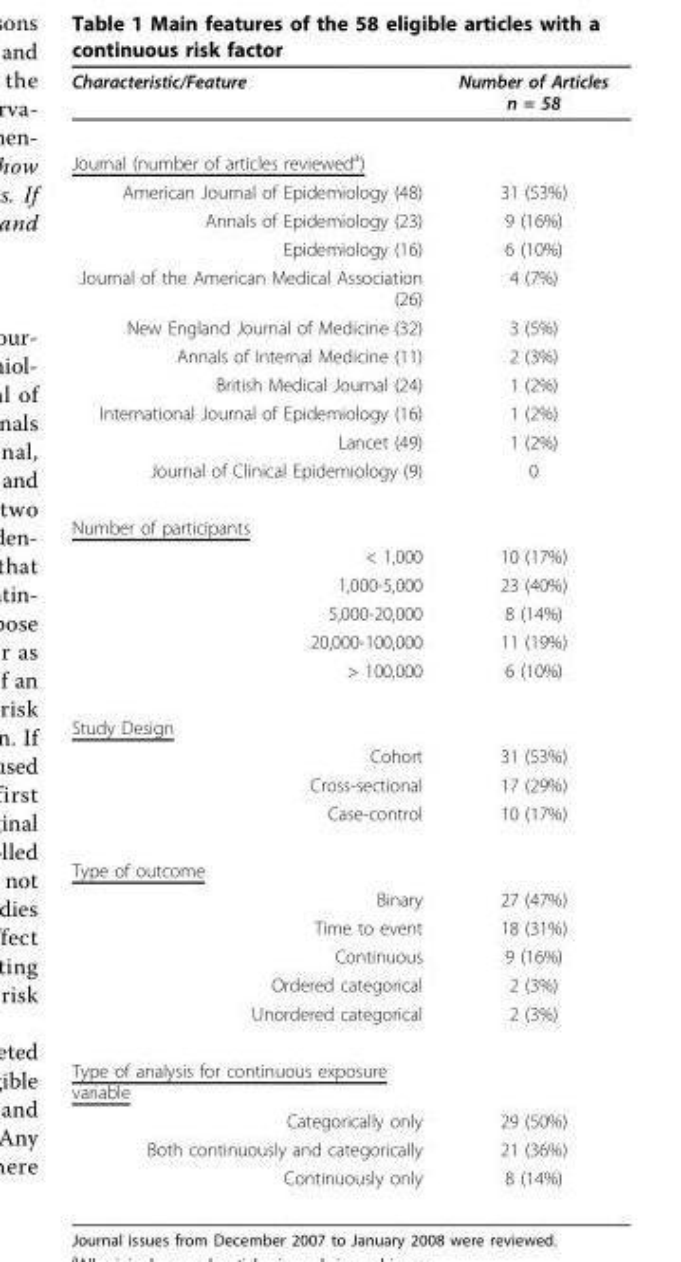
<table><thead><tr><td>Characteristic/Feature</td><td>Number of Articles n = 58</td></tr></thead><tbody><tr><td colspan="2">Journal (number of articles reviewed<sup>a</sup>)</td></tr><tr><td>American Journal of Epidemiology (48)</td><td>31 (53%)</td></tr><tr><td>Annals of Epidemiology (23)</td><td>9 (16%)</td></tr><tr><td>Epidemiology (16)</td><td>6 (10%)</td></tr><tr><td>Journal of the American Medical Association (26)</td><td>4 (7%)</td></tr><tr><td>New England Journal of Medicine (32)</td><td>3 (5%)</td></tr><tr><td>Annals of Internal Medicine (11)</td><td>2 (3%)</td></tr><tr><td>British Medical Journal (24)</td><td>1 (2%)</td></tr><tr><td>International Journal of Epidemiology (16)</td><td>1 (2%)</td></tr><tr><td>Lancet (49)</td><td>1 (2%)</td></tr><tr><td>Journal of Clinical Epidemiology (9)</td><td>0</td></tr><tr><td colspan="2">Number of participants</td></tr><tr><td>&lt; 1,000</td><td>10 (17%)</td></tr><tr><td>1,000-5,000</td><td>23 (40%)</td></tr><tr><td>5,000-20,000</td><td>8 (14%)</td></tr><tr><td>20,000-100,000</td><td>11 (19%)</td></tr><tr><td>&gt; 100,000</td><td>6 (10%)</td></tr><tr><td colspan="2">Study Design</td></tr><tr><td>Cohort</td><td>31 (53%)</td></tr><tr><td>Cross-sectional</td><td>17 (29%)</td></tr><tr><td>Case-control</td><td>10 (17%)</td></tr><tr><td colspan="2">Type of outcome</td></tr><tr><td>Binary</td><td>27 (47%)</td></tr><tr><td>Time to event</td><td>18 (31%)</td></tr><tr><td>Continuous</td><td>9 (16%)</td></tr><tr><td>Ordered categorical</td><td>2 (3%)</td></tr><tr><td>Unordered categorical</td><td>2 (3%)</td></tr><tr><td colspan="2">Type of analysis for continuous exposure variable</td></tr><tr><td>Categorically only</td><td>29 (50%)</td></tr><tr><td>Both continuously and categorically</td><td>21 (36%)</td></tr><tr><td>Continuously only</td><td>8 (14%)</td></tr></tbody></table>